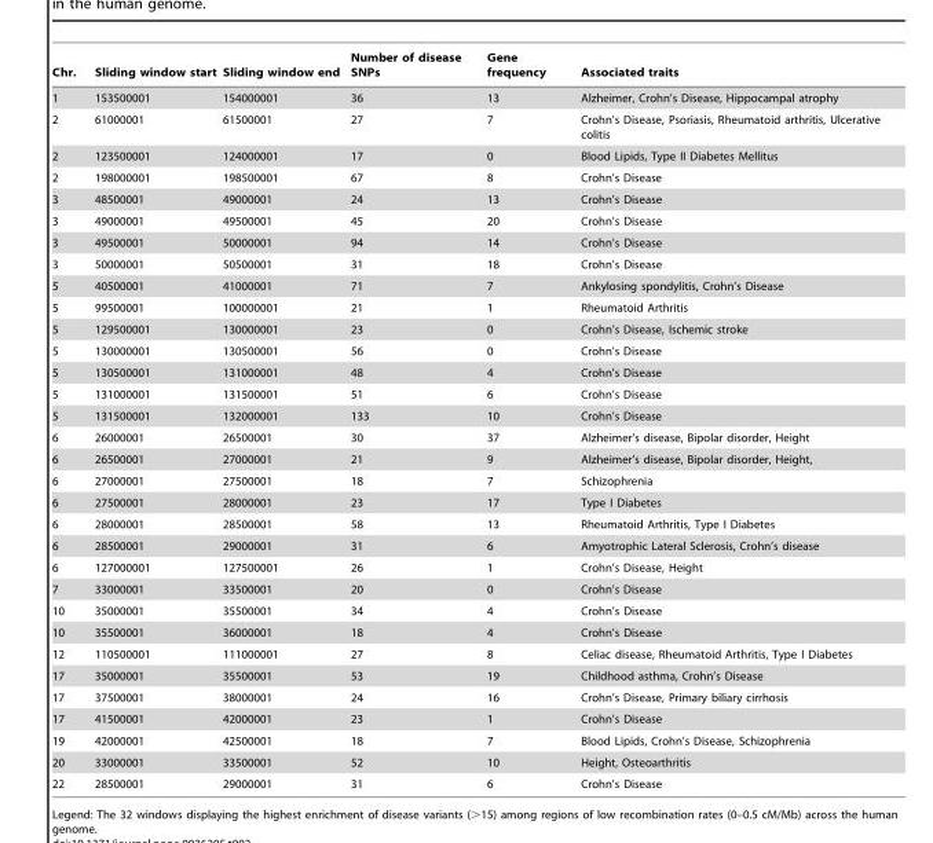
<table><thead><tr><td>Chr.</td><td>Sliding window start</td><td>Sliding window end</td><td>Number of disease SNPs</td><td>Gene frequency</td><td>Associated traits</td></tr></thead><tbody><tr><td>1</td><td>153500001</td><td>154000001</td><td>36</td><td>13</td><td>Alzheimer, Crohn’s Disease, Hippocampal atrophy</td></tr><tr><td>2</td><td>61000001</td><td>61500001</td><td>27</td><td>7</td><td>Crohn’s Disease, Psoriasis, Rheumatoid arthritis, Ulcerative colitis</td></tr><tr><td>2</td><td>123500001</td><td>124000001</td><td>17</td><td>0</td><td>Blood Lipids, Type II Diabetes Mellitus</td></tr><tr><td>2</td><td>198000001</td><td>198500001</td><td>67</td><td>8</td><td>Crohn’s Disease</td></tr><tr><td>3</td><td>48500001</td><td>49000001</td><td>24</td><td>13</td><td>Crohn’s Disease</td></tr><tr><td>3</td><td>49000001</td><td>49500001</td><td>45</td><td>20</td><td>Crohn’s Disease</td></tr><tr><td>3</td><td>49500001</td><td>50000001</td><td>94</td><td>14</td><td>Crohn’s Disease</td></tr><tr><td>3</td><td>50000001</td><td>50500001</td><td>31</td><td>18</td><td>Crohn’s Disease</td></tr><tr><td>5</td><td>40500001</td><td>41000001</td><td>71</td><td>7</td><td>Ankylosing spondylitis, Crohn’s Disease</td></tr><tr><td>5</td><td>99500001</td><td>100000001</td><td>21</td><td>1</td><td>Rheumatoid Arthritis</td></tr><tr><td>5</td><td>129500001</td><td>130000001</td><td>23</td><td>0</td><td>Crohn’s Disease, Ischemic stroke</td></tr><tr><td>5</td><td>130000001</td><td>130500001</td><td>56</td><td>0</td><td>Crohn’s Disease</td></tr><tr><td>5</td><td>130500001</td><td>131000001</td><td>48</td><td>4</td><td>Crohn’s Disease</td></tr><tr><td>5</td><td>131000001</td><td>131500001</td><td>51</td><td>6</td><td>Crohn’s Disease</td></tr><tr><td>5</td><td>131500001</td><td>132000001</td><td>133</td><td>10</td><td>Crohn’s Disease</td></tr><tr><td>6</td><td>26000001</td><td>26500001</td><td>30</td><td>37</td><td>Alzheimer’s disease, Bipolar disorder, Height</td></tr><tr><td>6</td><td>26500001</td><td>27000001</td><td>21</td><td>9</td><td>Alzheimer’s disease, Bipolar disorder, Height,</td></tr><tr><td>6</td><td>27000001</td><td>27500001</td><td>18</td><td>7</td><td>Schizophrenia</td></tr><tr><td>6</td><td>27500001</td><td>28000001</td><td>23</td><td>17</td><td>Type I Diabetes</td></tr><tr><td>6</td><td>28000001</td><td>28500001</td><td>58</td><td>13</td><td>Rheumatoid Arthritis, Type I Diabetes</td></tr><tr><td>6</td><td>28500001</td><td>29000001</td><td>31</td><td>6</td><td>Amyotrophic Lateral Sclerosis, Crohn’s disease</td></tr><tr><td>6</td><td>127000001</td><td>127500001</td><td>26</td><td>1</td><td>Crohn’s Disease, Height</td></tr><tr><td>7</td><td>33000001</td><td>33500001</td><td>20</td><td>0</td><td>Crohn’s Disease</td></tr><tr><td>10</td><td>35000001</td><td>35500001</td><td>34</td><td>4</td><td>Crohn’s Disease</td></tr><tr><td>10</td><td>35500001</td><td>36000001</td><td>18</td><td>4</td><td>Crohn’s Disease</td></tr><tr><td>12</td><td>110500001</td><td>111000001</td><td>27</td><td>8</td><td>Celiac disease, Rheumatoid Arthritis, Type I Diabetes</td></tr><tr><td>17</td><td>35000001</td><td>35500001</td><td>53</td><td>19</td><td>Childhood asthma, Crohn’s Disease</td></tr><tr><td>17</td><td>37500001</td><td>38000001</td><td>24</td><td>16</td><td>Crohn’s Disease, Primary biliary cirrhosis</td></tr><tr><td>17</td><td>41500001</td><td>42000001</td><td>23</td><td>1</td><td>Crohn’s Disease</td></tr><tr><td>19</td><td>42000001</td><td>42500001</td><td>18</td><td>7</td><td>Blood Lipids, Crohn’s Disease, Schizophrenia</td></tr><tr><td>20</td><td>33000001</td><td>33500001</td><td>52</td><td>10</td><td>Height, Osteoarthritis</td></tr><tr><td>22</td><td>28500001</td><td>29000001</td><td>31</td><td>6</td><td>Crohn’s Disease</td></tr></tbody></table>